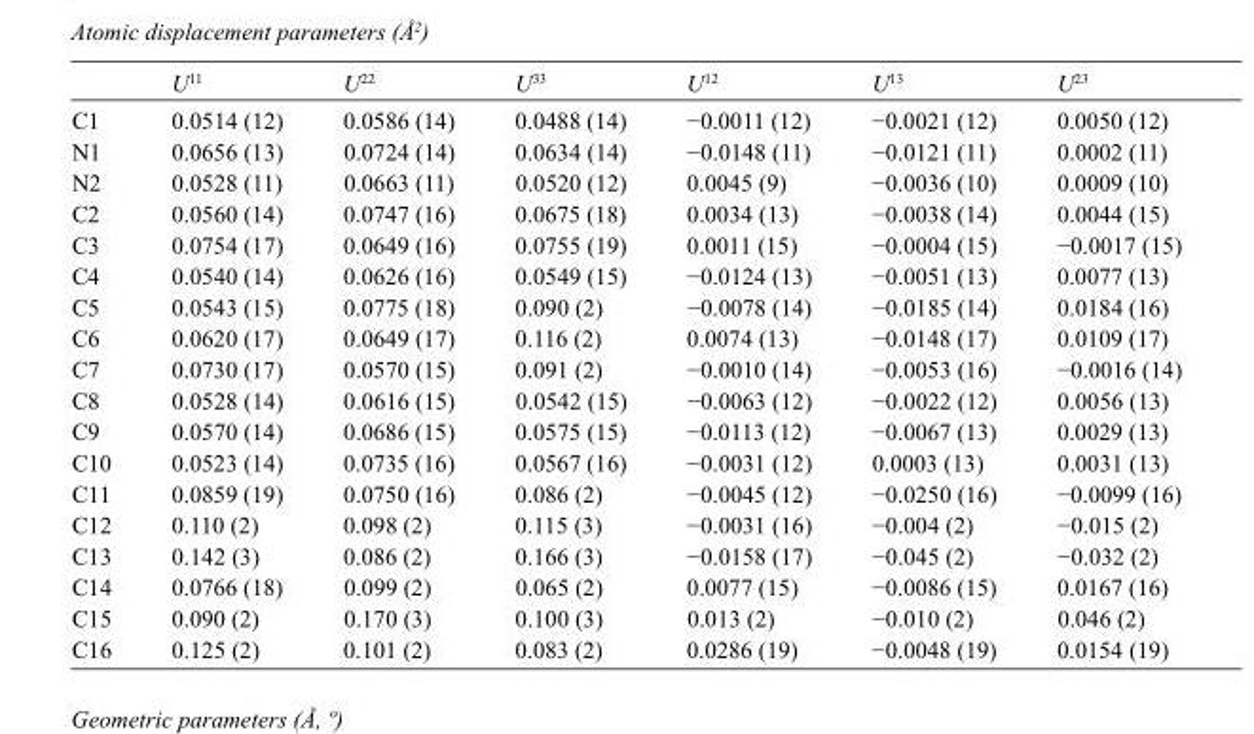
<table><thead><tr><td></td><td>U<sup>11</sup></td><td>U<sup>22</sup></td><td>U<sup>33</sup></td><td>U<sup>12</sup></td><td>U<sup>13</sup></td><td>U<sup>23</sup></td></tr></thead><tbody><tr><td>C1</td><td>0.0514 (12)</td><td>0.0586 (14)</td><td>0.0488 (14)</td><td>−0.0011 (12)</td><td>−0.0021 (12)</td><td>0.0050 (12)</td></tr><tr><td>N1</td><td>0.0656 (13)</td><td>0.0724 (14)</td><td>0.0634 (14)</td><td>−0.0148 (11)</td><td>−0.0121 (11)</td><td>0.0002 (11)</td></tr><tr><td>N2</td><td>0.0528 (11)</td><td>0.0663 (11)</td><td>0.0520 (12)</td><td>0.0045 (9)</td><td>−0.0036 (10)</td><td>0.0009 (10)</td></tr><tr><td>C2</td><td>0.0560 (14)</td><td>0.0747 (16)</td><td>0.0675 (18)</td><td>0.0034 (13)</td><td>−0.0038 (14)</td><td>0.0044 (15)</td></tr><tr><td>C3</td><td>0.0754 (17)</td><td>0.0649 (16)</td><td>0.0755 (19)</td><td>0.0011 (15)</td><td>−0.0004 (15)</td><td>−0.0017 (15)</td></tr><tr><td>C4</td><td>0.0540 (14)</td><td>0.0626 (16)</td><td>0.0549 (15)</td><td>−0.0124 (13)</td><td>−0.0051 (13)</td><td>0.0077 (13)</td></tr><tr><td>C5</td><td>0.0543 (15)</td><td>0.0775 (18)</td><td>0.090 (2)</td><td>−0.0078 (14)</td><td>−0.0185 (14)</td><td>0.0184 (16)</td></tr><tr><td>C6</td><td>0.0620 (17)</td><td>0.0649 (17)</td><td>0.116 (2)</td><td>0.0074 (13)</td><td>−0.0148 (17)</td><td>0.0109 (17)</td></tr><tr><td>C7</td><td>0.0730 (17)</td><td>0.0570 (15)</td><td>0.091 (2)</td><td>−0.0010 (14)</td><td>−0.0053 (16)</td><td>−0.0016 (14)</td></tr><tr><td>C8</td><td>0.0528 (14)</td><td>0.0616 (15)</td><td>0.0542 (15)</td><td>−0.0063 (12)</td><td>−0.0022 (12)</td><td>0.0056 (13)</td></tr><tr><td>C9</td><td>0.0570 (14)</td><td>0.0686 (15)</td><td>0.0575 (15)</td><td>−0.0113 (12)</td><td>−0.0067 (13)</td><td>0.0029 (13)</td></tr><tr><td>C10</td><td>0.0523 (14)</td><td>0.0735 (16)</td><td>0.0567 (16)</td><td>−0.0031 (12)</td><td>0.0003 (13)</td><td>0.0031 (13)</td></tr><tr><td>C11</td><td>0.0859 (19)</td><td>0.0750 (16)</td><td>0.086 (2)</td><td>−0.0045 (12)</td><td>−0.0250 (16)</td><td>−0.0099 (16)</td></tr><tr><td>C12</td><td>0.110 (2)</td><td>0.098 (2)</td><td>0.115 (3)</td><td>−0.0031 (16)</td><td>−0.004 (2)</td><td>−0.015 (2)</td></tr><tr><td>C13</td><td>0.142 (3)</td><td>0.086 (2)</td><td>0.166 (3)</td><td>−0.0158 (17)</td><td>−0.045 (2)</td><td>−0.032 (2)</td></tr><tr><td>C14</td><td>0.0766 (18)</td><td>0.099 (2)</td><td>0.065 (2)</td><td>0.0077 (15)</td><td>−0.0086 (15)</td><td>0.0167 (16)</td></tr><tr><td>C15</td><td>0.090 (2)</td><td>0.170 (3)</td><td>0.100 (3)</td><td>0.013 (2)</td><td>−0.010 (2)</td><td>0.046 (2)</td></tr><tr><td>C16</td><td>0.125 (2)</td><td>0.101 (2)</td><td>0.083 (2)</td><td>0.0286 (19)</td><td>−0.0048 (19)</td><td>0.0154 (19)</td></tr></tbody></table>